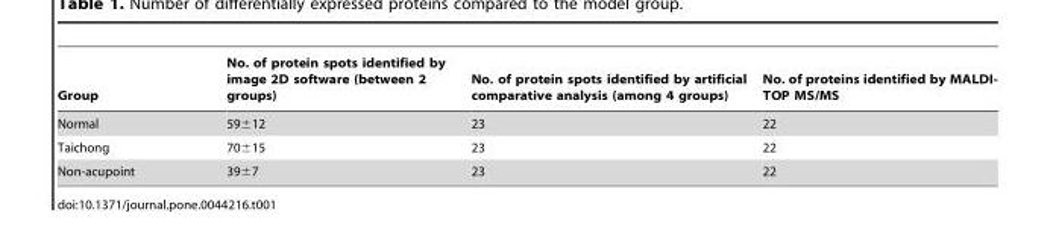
<table><thead><tr><td>Group</td><td>No. of protein spots identified by image 2D software (between 2 groups)</td><td>No. of protein spots identified by artificial comparative analysis (among 4 groups)</td><td>No. of proteins identified by MALDI- TOP MS/MS</td></tr></thead><tbody><tr><td>Normal</td><td>59±12</td><td>23</td><td>22</td></tr><tr><td>Taichong</td><td>70±15</td><td>23</td><td>22</td></tr><tr><td>Non-acupoint</td><td>39±7</td><td>23</td><td>22</td></tr></tbody></table>